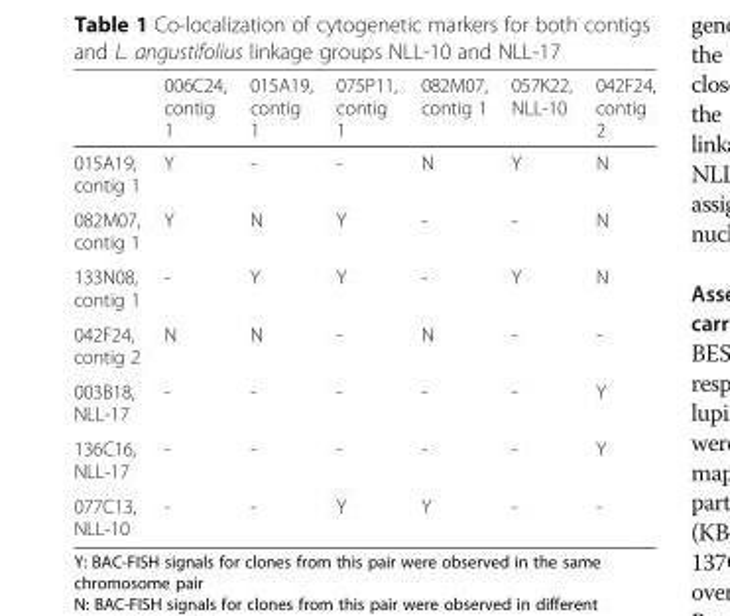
<table><thead><tr><td></td><td>006C24, contig 1</td><td>015A19, contig 1</td><td>075P11, contig 1</td><td>082M07, contig 1</td><td>057K22, NLL-10</td><td>042F24, contig 2</td></tr></thead><tbody><tr><td>015A19, contig 1</td><td>Y</td><td>-</td><td>-</td><td>N</td><td>Y</td><td>N</td></tr><tr><td>082M07, contig 1</td><td>Y</td><td>N</td><td>Y</td><td>-</td><td>-</td><td>N</td></tr><tr><td>133N08, contig 1</td><td>-</td><td>Y</td><td>Y</td><td>-</td><td>Y</td><td>N</td></tr><tr><td>042F24, contig 2</td><td>N</td><td>N</td><td>-</td><td>N</td><td>-</td><td>-</td></tr><tr><td>003B18, NLL-17</td><td>-</td><td>-</td><td>-</td><td>-</td><td>-</td><td>Y</td></tr><tr><td>136C16, NLL-17</td><td>-</td><td>-</td><td>-</td><td>-</td><td>-</td><td>Y</td></tr><tr><td>077C13, NLL-10</td><td>-</td><td>-</td><td>Y</td><td>Y</td><td>-</td><td>-</td></tr></tbody></table>